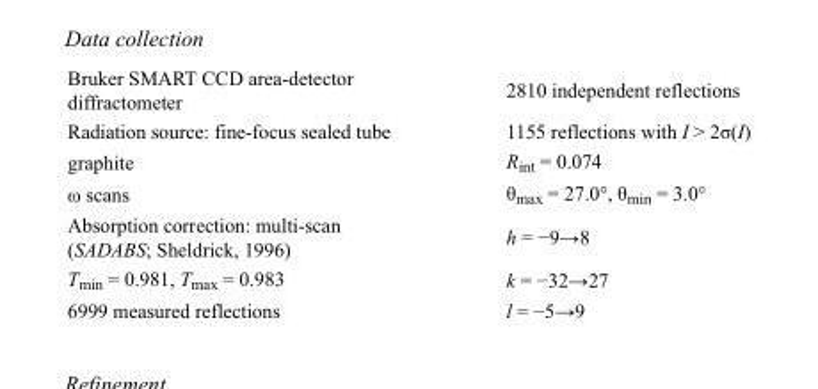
<table><tbody><tr><td>Bruker SMART CCD area-detector diffractometer</td><td>2810 independent reflections</td></tr><tr><td>Radiation source: fine-focus sealed tube</td><td>1155 reflections with I &gt; 2σ(I)</td></tr><tr><td>graphite</td><td>R<sub>int</sub> = 0.074</td></tr><tr><td>ω scans</td><td>θ<sub>max</sub> = 27.0°, θ<sub>min</sub> = 3.0°</td></tr><tr><td>Absorption correction: multi-scan (SADABS; Sheldrick, 1996)</td><td>h = −9→8</td></tr><tr><td>T<sub>min</sub> = 0.981, T<sub>max</sub> = 0.983</td><td>k = −32→27</td></tr><tr><td>6999 measured reflections</td><td>l = −5→9</td></tr></tbody></table>